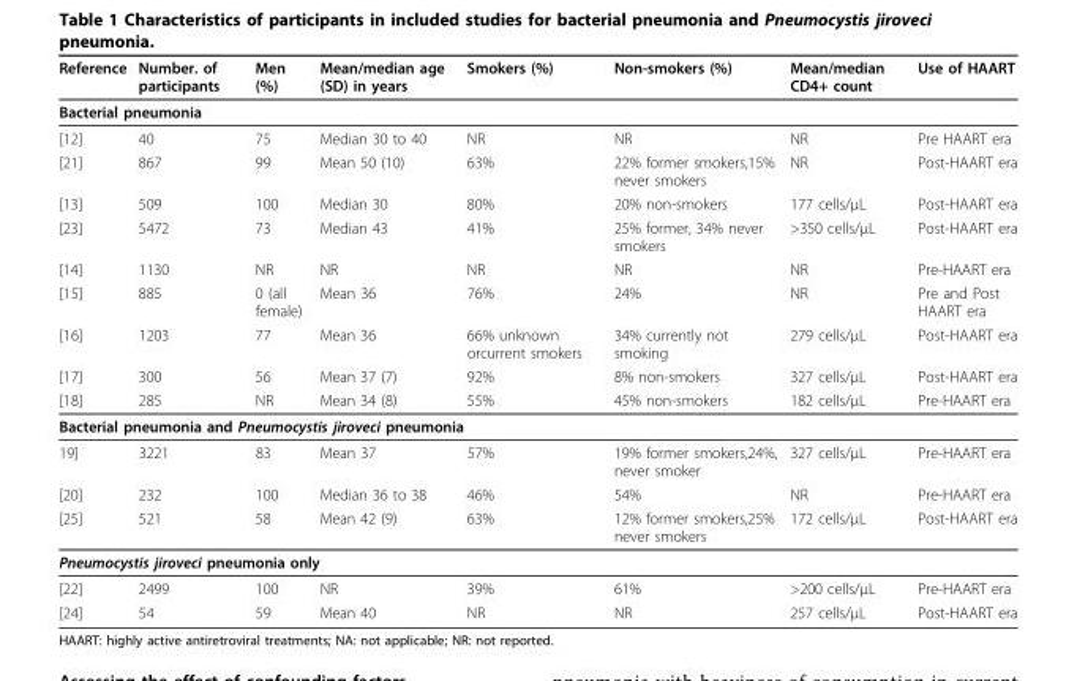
<table><thead><tr><td>Reference</td><td>Number. of participants</td><td>Men (%)</td><td>Mean/median age (SD) in years</td><td>Smokers (%)</td><td>Non-smokers (%)</td><td>Mean/median CD4+ count</td><td>Use of HAART</td></tr></thead><tbody><tr><td colspan="8">Bacterial pneumonia</td></tr><tr><td>[12]</td><td>40</td><td>75</td><td>Median 30 to 40</td><td>NR</td><td>NR</td><td>NR</td><td>Pre HAART era</td></tr><tr><td>[21]</td><td>867</td><td>99</td><td>Mean 50 (10)</td><td>63%</td><td>22% former smokers,15% never smokers</td><td>NR</td><td>Post-HAART era</td></tr><tr><td>[13]</td><td>509</td><td>100</td><td>Median 30</td><td>80%</td><td>20% non-smokers</td><td>177 cells/μL</td><td>Post-HAART era</td></tr><tr><td>[23]</td><td>5472</td><td>73</td><td>Median 43</td><td>41%</td><td>25% former, 34% never smokers</td><td>&gt;350 cells/μL</td><td>Post-HAART era</td></tr><tr><td>[14]</td><td>1130</td><td>NR</td><td>NR</td><td>NR</td><td>NR</td><td>NR</td><td>Pre-HAART era</td></tr><tr><td>[15]</td><td>885</td><td>0 (all female)</td><td>Mean 36</td><td>76%</td><td>24%</td><td>NR</td><td>Pre and Post HAART era</td></tr><tr><td>[16]</td><td>1203</td><td>77</td><td>Mean 36</td><td>66% unknown orcurrent smokers</td><td>34% currently not smoking</td><td>279 cells/μL</td><td>Post-HAART era</td></tr><tr><td>[17]</td><td>300</td><td>56</td><td>Mean 37 (7)</td><td>92%</td><td>8% non-smokers</td><td>327 cells/μL</td><td>Post-HAART era</td></tr><tr><td>[18]</td><td>285</td><td>NR</td><td>Mean 34 (8)</td><td>55%</td><td>45% non-smokers</td><td>182 cells/μL</td><td>Pre-HAART era</td></tr><tr><td colspan="8">Bacterial pneumonia and Pneumocystis jiroveci pneumonia</td></tr><tr><td>19]</td><td>3221</td><td>83</td><td>Mean 37</td><td>57%</td><td>19% former smokers,24%, never smoker</td><td>327 cells/μL</td><td>Pre-HAART era</td></tr><tr><td>[20]</td><td>232</td><td>100</td><td>Median 36 to 38</td><td>46%</td><td>54%</td><td>NR</td><td>Pre-HAART era</td></tr><tr><td>[25]</td><td>521</td><td>58</td><td>Mean 42 (9)</td><td>63%</td><td>12% former smokers,25% never smokers</td><td>172 cells/μL</td><td>Post-HAART era</td></tr><tr><td colspan="8">Pneumocystis jiroveci pneumonia only</td></tr><tr><td>[22]</td><td>2499</td><td>100</td><td>NR</td><td>39%</td><td>61%</td><td>&gt;200 cells/μL</td><td>Pre-HAART era</td></tr><tr><td>[24]</td><td>54</td><td>59</td><td>Mean 40</td><td>NR</td><td>NR</td><td>257 cells/μL</td><td>Post-HAART era</td></tr></tbody></table>